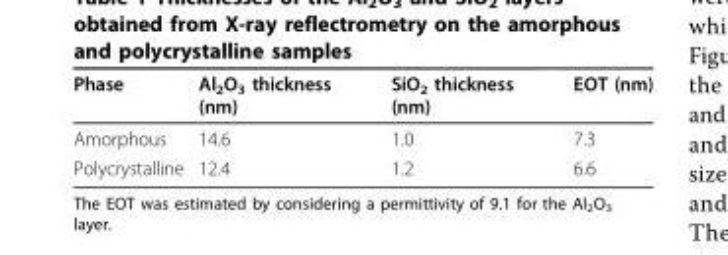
<table><thead><tr><td>Phase</td><td>Al<sub>2</sub>O<sub>3</sub> thickness (nm)</td><td>SiO<sub>2</sub> thickness (nm)</td><td>EOT (nm)</td></tr></thead><tbody><tr><td>Amorphous</td><td>14.6</td><td>1.0</td><td>7.3</td></tr><tr><td>Polycrystalline</td><td>12.4</td><td>1.2</td><td>6.6</td></tr></tbody></table>